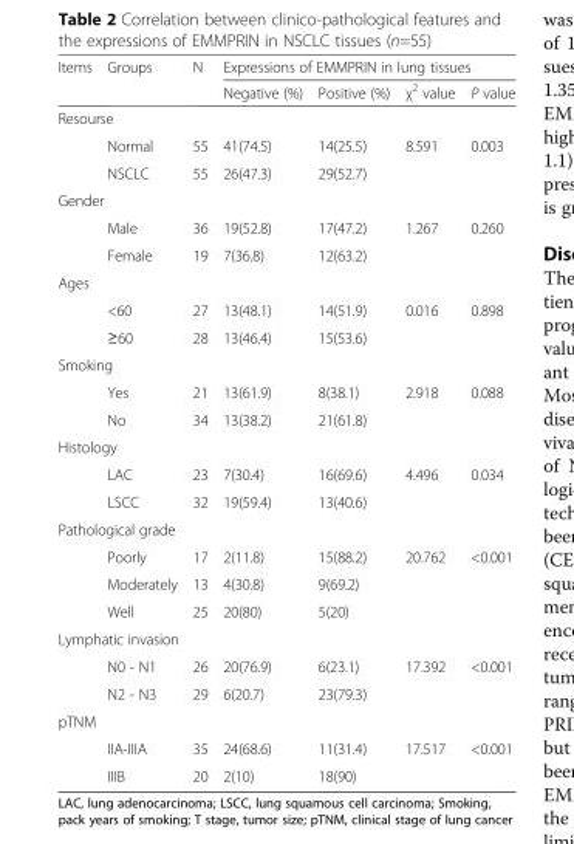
<table><thead><tr><td rowspan="2">Items</td><td rowspan="2">Groups</td><td rowspan="2">N</td><td colspan="4">Expressions of EMMPRIN in lung tissues</td></tr><tr><td>Negative (%)</td><td>Positive (%)</td><td>χ<sup>2</sup> value</td><td>P value</td></tr></thead><tbody><tr><td colspan="7">Resourse</td></tr><tr><td></td><td>Normal</td><td>55</td><td>41(74.5)</td><td>14(25.5)</td><td rowspan="2">8.591</td><td rowspan="2">0.003</td></tr><tr><td></td><td>NSCLC</td><td>55</td><td>26(47.3)</td><td>29(52.7)</td></tr><tr><td colspan="7">Gender</td></tr><tr><td></td><td>Male</td><td>36</td><td>19(52.8)</td><td>17(47.2)</td><td rowspan="2">1.267</td><td rowspan="2">0.260</td></tr><tr><td></td><td>Female</td><td>19</td><td>7(36.8)</td><td>12(63.2)</td></tr><tr><td colspan="7">Ages</td></tr><tr><td></td><td>&lt;60</td><td>27</td><td>13(48.1)</td><td>14(51.9)</td><td rowspan="2">0.016</td><td rowspan="2">0.898</td></tr><tr><td></td><td>≥60</td><td>28</td><td>13(46.4)</td><td>15(53.6)</td></tr><tr><td colspan="7">Smoking</td></tr><tr><td></td><td>Yes</td><td>21</td><td>13(61.9)</td><td>8(38.1)</td><td rowspan="2">2.918</td><td rowspan="2">0.088</td></tr><tr><td></td><td>No</td><td>34</td><td>13(38.2)</td><td>21(61.8)</td></tr><tr><td colspan="7">Histology</td></tr><tr><td></td><td>LAC</td><td>23</td><td>7(30.4)</td><td>16(69.6)</td><td rowspan="2">4.496</td><td rowspan="2">0.034</td></tr><tr><td></td><td>LSCC</td><td>32</td><td>19(59.4)</td><td>13(40.6)</td></tr><tr><td colspan="7">Pathological grade</td></tr><tr><td></td><td>Poorly</td><td>17</td><td>2(11.8)</td><td>15(88.2)</td><td rowspan="3">20.762</td><td rowspan="3">&lt;0.001</td></tr><tr><td></td><td>Moderately</td><td>13</td><td>4(30.8)</td><td>9(69.2)</td></tr><tr><td></td><td>Well</td><td>25</td><td>20(80)</td><td>5(20)</td></tr><tr><td colspan="7">Lymphatic invasion</td></tr><tr><td></td><td>N0 - N1</td><td>26</td><td>20(76.9)</td><td>6(23.1)</td><td rowspan="2">17.392</td><td rowspan="2">&lt;0.001</td></tr><tr><td></td><td>N2 - N3</td><td>29</td><td>6(20.7)</td><td>23(79.3)</td></tr><tr><td colspan="7">pTNM</td></tr><tr><td></td><td>IIA-IIIA</td><td>35</td><td>24(68.6)</td><td>11(31.4)</td><td rowspan="2">17.517</td><td rowspan="2">&lt;0.001</td></tr><tr><td></td><td>IIIB</td><td>20</td><td>2(10)</td><td>18(90)</td></tr></tbody></table>